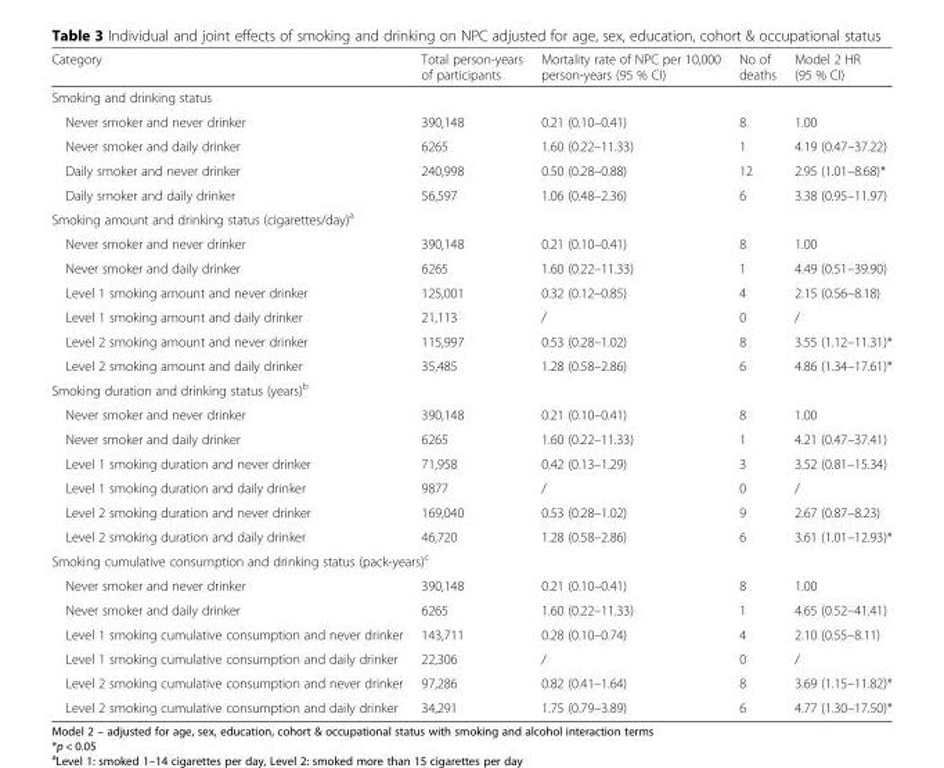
<table><thead><tr><td>Category</td><td>Total person-years of participants</td><td>Mortality rate of NPC per 10,000 person-years (95 % CI)</td><td>No of deaths</td><td>Model 2 HR (95 % CI)</td></tr></thead><tbody><tr><td colspan="5">Smoking and drinking status</td></tr><tr><td>Never smoker and never drinker</td><td>390,148</td><td>0.21 (0.10–0.41)</td><td>8</td><td>1.00</td></tr><tr><td>Never smoker and daily drinker</td><td>6265</td><td>1.60 (0.22–11.33)</td><td>1</td><td>4.19 (0.47–37.22)</td></tr><tr><td>Daily smoker and never drinker</td><td>240,998</td><td>0.50 (0.28–0.88)</td><td>12</td><td>2.95 (1.01–8.68)*</td></tr><tr><td>Daily smoker and daily drinker</td><td>56,597</td><td>1.06 (0.48–2.36)</td><td>6</td><td>3.38 (0.95–11.97)</td></tr><tr><td colspan="5">Smoking amount and drinking status (cigarettes/day)<sup>a</sup></td></tr><tr><td>Never smoker and never drinker</td><td>390,148</td><td>0.21 (0.10–0.41)</td><td>8</td><td>1.00</td></tr><tr><td>Never smoker and daily drinker</td><td>6265</td><td>1.60 (0.22–11.33)</td><td>1</td><td>4.49 (0.51–39.90)</td></tr><tr><td>Level 1 smoking amount and never drinker</td><td>125,001</td><td>0.32 (0.12–0.85)</td><td>4</td><td>2.15 (0.56–8.18)</td></tr><tr><td>Level 1 smoking amount and daily drinker</td><td>21,113</td><td>/</td><td>0</td><td>/</td></tr><tr><td>Level 2 smoking amount and never drinker</td><td>115,997</td><td>0.53 (0.28–1.02)</td><td>8</td><td>3.55 (1.12–11.31)*</td></tr><tr><td>Level 2 smoking amount and daily drinker</td><td>35,485</td><td>1.28 (0.58–2.86)</td><td>6</td><td>4.86 (1.34–17.61)*</td></tr><tr><td colspan="5">Smoking duration and drinking status (years)<sup>b</sup></td></tr><tr><td>Never smoker and never drinker</td><td>390,148</td><td>0.21 (0.10–0.41)</td><td>8</td><td>1.00</td></tr><tr><td>Never smoker and daily drinker</td><td>6265</td><td>1.60 (0.22–11.33)</td><td>1</td><td>4.21 (0.47–37.41)</td></tr><tr><td>Level 1 smoking duration and never drinker</td><td>71,958</td><td>0.42 (0.13–1.29)</td><td>3</td><td>3.52 (0.81–15.34)</td></tr><tr><td>Level 1 smoking duration and daily drinker</td><td>9877</td><td>/</td><td>0</td><td>/</td></tr><tr><td>Level 2 smoking duration and never drinker</td><td>169,040</td><td>0.53 (0.28–1.02)</td><td>9</td><td>2.67 (0.87–8.23)</td></tr><tr><td>Level 2 smoking duration and daily drinker</td><td>46,720</td><td>1.28 (0.58–2.86)</td><td>6</td><td>3.61 (1.01–12.93)*</td></tr><tr><td colspan="5">Smoking cumulative consumption and drinking status (pack-years)<sup>c</sup></td></tr><tr><td>Never smoker and never drinker</td><td>390,148</td><td>0.21 (0.10–0.41)</td><td>8</td><td>1.00</td></tr><tr><td>Never smoker and daily drinker</td><td>6265</td><td>1.60 (0.22–11.33)</td><td>1</td><td>4.65 (0.52–41.41)</td></tr><tr><td>Level 1 smoking cumulative consumption and never drinker</td><td>143,711</td><td>0.28 (0.10–0.74)</td><td>4</td><td>2.10 (0.55–8.11)</td></tr><tr><td>Level 1 smoking cumulative consumption and daily drinker</td><td>22,306</td><td>/</td><td>0</td><td>/</td></tr><tr><td>Level 2 smoking cumulative consumption and never drinker</td><td>97,286</td><td>0.82 (0.41–1.64)</td><td>8</td><td>3.69 (1.15–11.82)*</td></tr><tr><td>Level 2 smoking cumulative consumption and daily drinker</td><td>34,291</td><td>1.75 (0.79–3.89)</td><td>6</td><td>4.77 (1.30–17.50)*</td></tr></tbody></table>